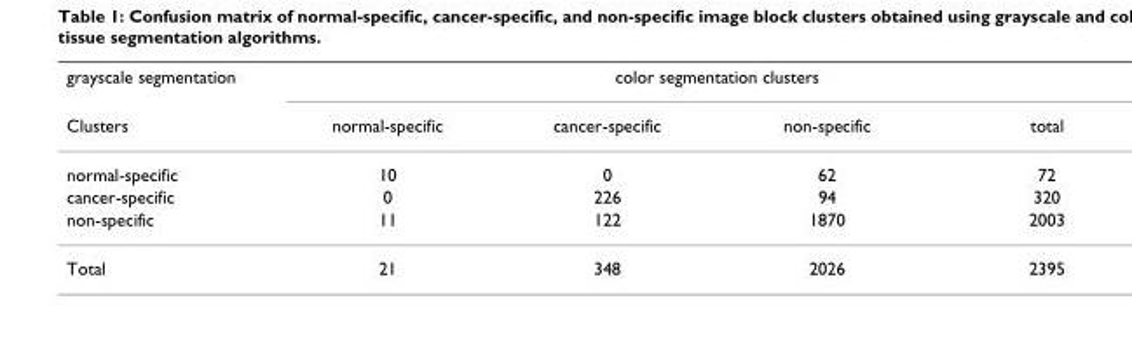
<table><thead><tr><td rowspan="2">grayscale segmentation Clusters</td><td colspan="4">color segmentation clusters</td></tr><tr><td>normal-specific</td><td>cancer-specific</td><td>non-specific</td><td>total</td></tr></thead><tbody><tr><td>normal-specific</td><td>10</td><td>0</td><td>62</td><td>72</td></tr><tr><td>cancer-specific</td><td>0</td><td>226</td><td>94</td><td>320</td></tr><tr><td>non-specific</td><td>11</td><td>122</td><td>1870</td><td>2003</td></tr><tr><td>Total</td><td>21</td><td>348</td><td>2026</td><td>2395</td></tr></tbody></table>